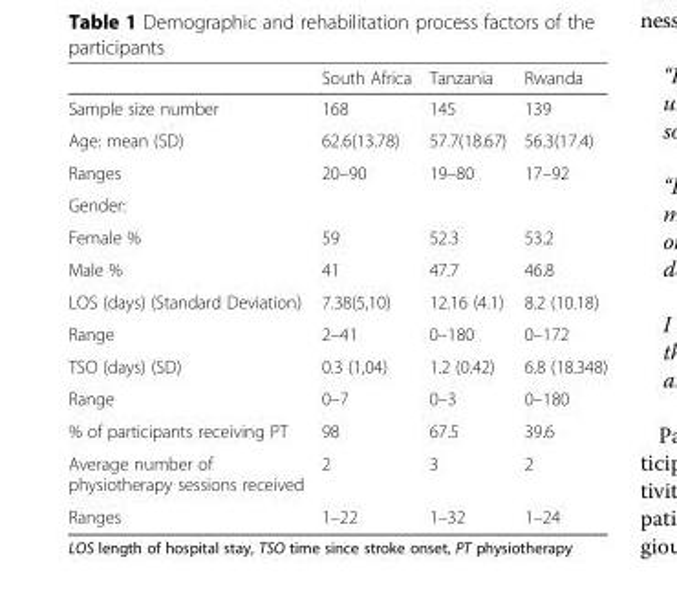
<table><thead><tr><td></td><td>South Africa</td><td>Tanzania</td><td>Rwanda</td></tr></thead><tbody><tr><td>Sample size number</td><td>168</td><td>145</td><td>139</td></tr><tr><td>Age: mean (SD)</td><td>62.6(13.78)</td><td>57.7(18.67)</td><td>56.3(17.4)</td></tr><tr><td>Ranges</td><td>20–90</td><td>19–80</td><td>17–92</td></tr><tr><td colspan="4">Gender:</td></tr><tr><td>Female %</td><td>59</td><td>52.3</td><td>53.2</td></tr><tr><td>Male %</td><td>41</td><td>47.7</td><td>46.8</td></tr><tr><td>LOS (days) (Standard Deviation)</td><td>7.38(5,10)</td><td>12.16 (4.1)</td><td>8.2 (10.18)</td></tr><tr><td>Range</td><td>2–41</td><td>0–180</td><td>0–172</td></tr><tr><td>TSO (days) (SD)</td><td>0.3 (1,04)</td><td>1.2 (0.42)</td><td>6.8 (18.348)</td></tr><tr><td>Range</td><td>0–7</td><td>0–3</td><td>0–180</td></tr><tr><td>% of participants receiving PT</td><td>98</td><td>67.5</td><td>39.6</td></tr><tr><td>Average number of physiotherapy sessions received</td><td>2</td><td>3</td><td>2</td></tr><tr><td>Ranges</td><td>1–22</td><td>1–32</td><td>1–24</td></tr></tbody></table>